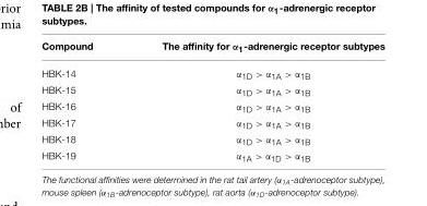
<table><thead><tr><td>Compound</td><td>The affinity for α<sub>1</sub>-adrenergic receptor subtypes</td></tr></thead><tbody><tr><td>HBK-14</td><td>α<sub>1D</sub> &gt; α<sub>1A</sub> &gt; α<sub>1B</sub></td></tr><tr><td>HBK-15</td><td>α<sub>1D</sub> &gt; α<sub>1A</sub> &gt; α<sub>1B</sub></td></tr><tr><td>HBK-16</td><td>α<sub>1D</sub> &gt; α<sub>1A</sub> &gt; α<sub>1B</sub></td></tr><tr><td>HBK-17</td><td>α<sub>1D</sub> &gt; α<sub>1A</sub> &gt; α<sub>1B</sub></td></tr><tr><td>HBK-18</td><td>α<sub>1D</sub> &gt; α<sub>1A</sub> &gt; α<sub>1B</sub></td></tr><tr><td>HBK-19</td><td>α<sub>1A</sub> &gt; α<sub>1D</sub> &gt; α<sub>1B</sub></td></tr></tbody></table>